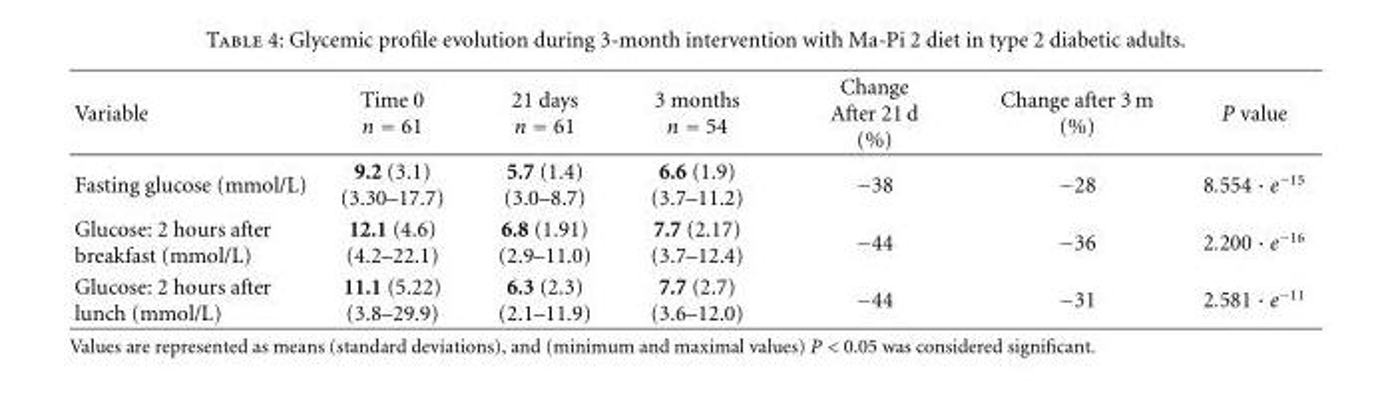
<table><thead><tr><td>Variable</td><td>Time 0 n = 61</td><td>21 days n = 61</td><td>3 months n = 54</td><td>Change After 21 d (%)</td><td>Change after 3 m (%)</td><td>P value</td></tr></thead><tbody><tr><td>Fasting glucose (mmol/L)</td><td>9.2 (3.1) (3.30–17.7)</td><td>5.7 (1.4) (3.0–8.7)</td><td>6.6 (1.9) (3.7–11.2)</td><td>−38</td><td>−28</td><td>8.554 · e<sup>−15</sup></td></tr><tr><td>Glucose: 2 hours after breakfast (mmol/L)</td><td>12.1 (4.6) (4.2–22.1)</td><td>6.8 (1.91) (2.9–11.0)</td><td>7.7 (2.17) (3.7–12.4)</td><td>−44</td><td>−36</td><td>2.200 · e<sup>−16</sup></td></tr><tr><td>Glucose: 2 hours after lunch (mmol/L)</td><td>11.1 (5.22) (3.8–29.9)</td><td>6.3 (2.3) (2.1–11.9)</td><td>7.7 (2.7) (3.6–12.0)</td><td>−44</td><td>−31</td><td>2.581 · e<sup>−11</sup></td></tr></tbody></table>